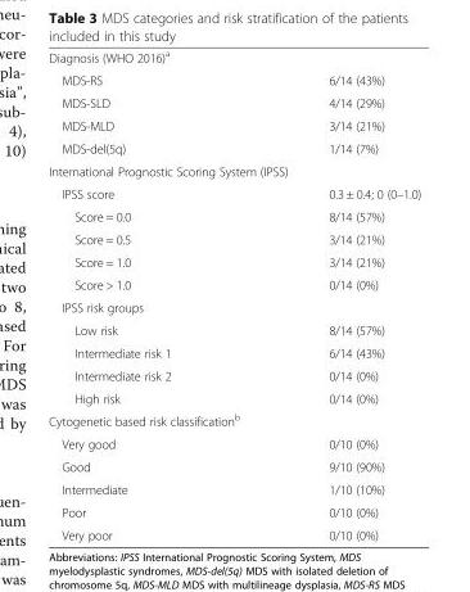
<table><tbody><tr><td colspan="2">Diagnosis (WHO 2016)<sup>a</sup></td></tr><tr><td>MDS-RS</td><td>6/14 (43%)</td></tr><tr><td>MDS-SLD</td><td>4/14 (29%)</td></tr><tr><td>MDS-MLD</td><td>3/14 (21%)</td></tr><tr><td>MDS-del(5q)</td><td>1/14 (7%)</td></tr><tr><td colspan="2">International Prognostic Scoring System (IPSS)</td></tr><tr><td>IPSS score</td><td>0.3 ± 0.4; 0 (0–1.0)</td></tr><tr><td>Score = 0.0</td><td>8/14 (57%)</td></tr><tr><td>Score = 0.5</td><td>3/14 (21%)</td></tr><tr><td>Score = 1.0</td><td>3/14 (21%)</td></tr><tr><td>Score &gt; 1.0</td><td>0/14 (0%)</td></tr><tr><td colspan="2">IPSS risk groups</td></tr><tr><td>Low risk</td><td>8/14 (57%)</td></tr><tr><td>Intermediate risk 1</td><td>6/14 (43%)</td></tr><tr><td>Intermediate risk 2</td><td>0/14 (0%)</td></tr><tr><td>High risk</td><td>0/14 (0%)</td></tr><tr><td colspan="2">Cytogenetic based risk classification<sup>b</sup></td></tr><tr><td>Very good</td><td>0/10 (0%)</td></tr><tr><td>Good</td><td>9/10 (90%)</td></tr><tr><td>Intermediate</td><td>1/10 (10%)</td></tr><tr><td>Poor</td><td>0/10 (0%)</td></tr><tr><td>Very poor</td><td>0/10 (0%)</td></tr></tbody></table>